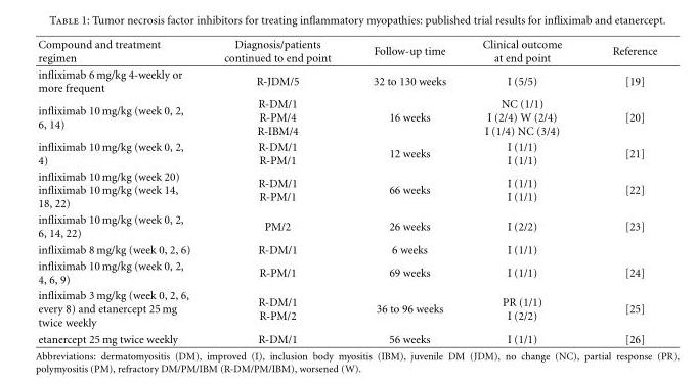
<table><thead><tr><td>Compound and treatment regimen</td><td>Diagnosis/patients continued to end point</td><td>Follow-up time</td><td>Clinical outcome at end point</td><td>Reference</td></tr></thead><tbody><tr><td>infliximab 6 mg/kg 4-weekly or more frequent</td><td>R-JDM/5</td><td>32 to 130 weeks</td><td>I (5/5)</td><td>[19]</td></tr><tr><td>infliximab 10 mg/kg (week 0, 2, 6, 14)</td><td>R-DM/1 R-PM/4 R-IBM/4</td><td>16 weeks</td><td>NC (1/1) I (2/4) W (2/4) I (1/4) NC (3/4)</td><td>[20]</td></tr><tr><td>infliximab 10 mg/kg (week 0, 2, 4)</td><td>R-DM/1 R-PM/1</td><td>12 weeks</td><td>I (1/1) I (1/1)</td><td>[21]</td></tr><tr><td>infliximab 10 mg/kg (week 20) infliximab 10 mg/kg (week 14, 18, 22)</td><td>R-DM/1 R-PM/1</td><td>66 weeks</td><td>I (1/1) I (1/1)</td><td>[22]</td></tr><tr><td>infliximab 10 mg/kg (week 0, 2, 6, 14, 22)</td><td>PM/2</td><td>26 weeks</td><td>I (2/2)</td><td>[23]</td></tr><tr><td>infliximab 8 mg/kg (week 0, 2, 6)</td><td>R-DM/1</td><td>6 weeks</td><td>I (1/1)</td><td></td></tr><tr><td>infliximab 10 mg/kg (week 0, 2, 4, 6, 9)</td><td>R-PM/1</td><td>69 weeks</td><td>I (1/1)</td><td>[24]</td></tr><tr><td>infliximab 3 mg/kg (week 0, 2, 6, every 8) and etanercept 25 mg twice weekly</td><td>R-DM/1 R-PM/2</td><td>36 to 96 weeks</td><td>PR (1/1) I (2/2)</td><td>[25]</td></tr><tr><td>etanercept 25 mg twice weekly</td><td>R-DM/1</td><td>56 weeks</td><td>I (1/1)</td><td>[26]</td></tr></tbody></table>